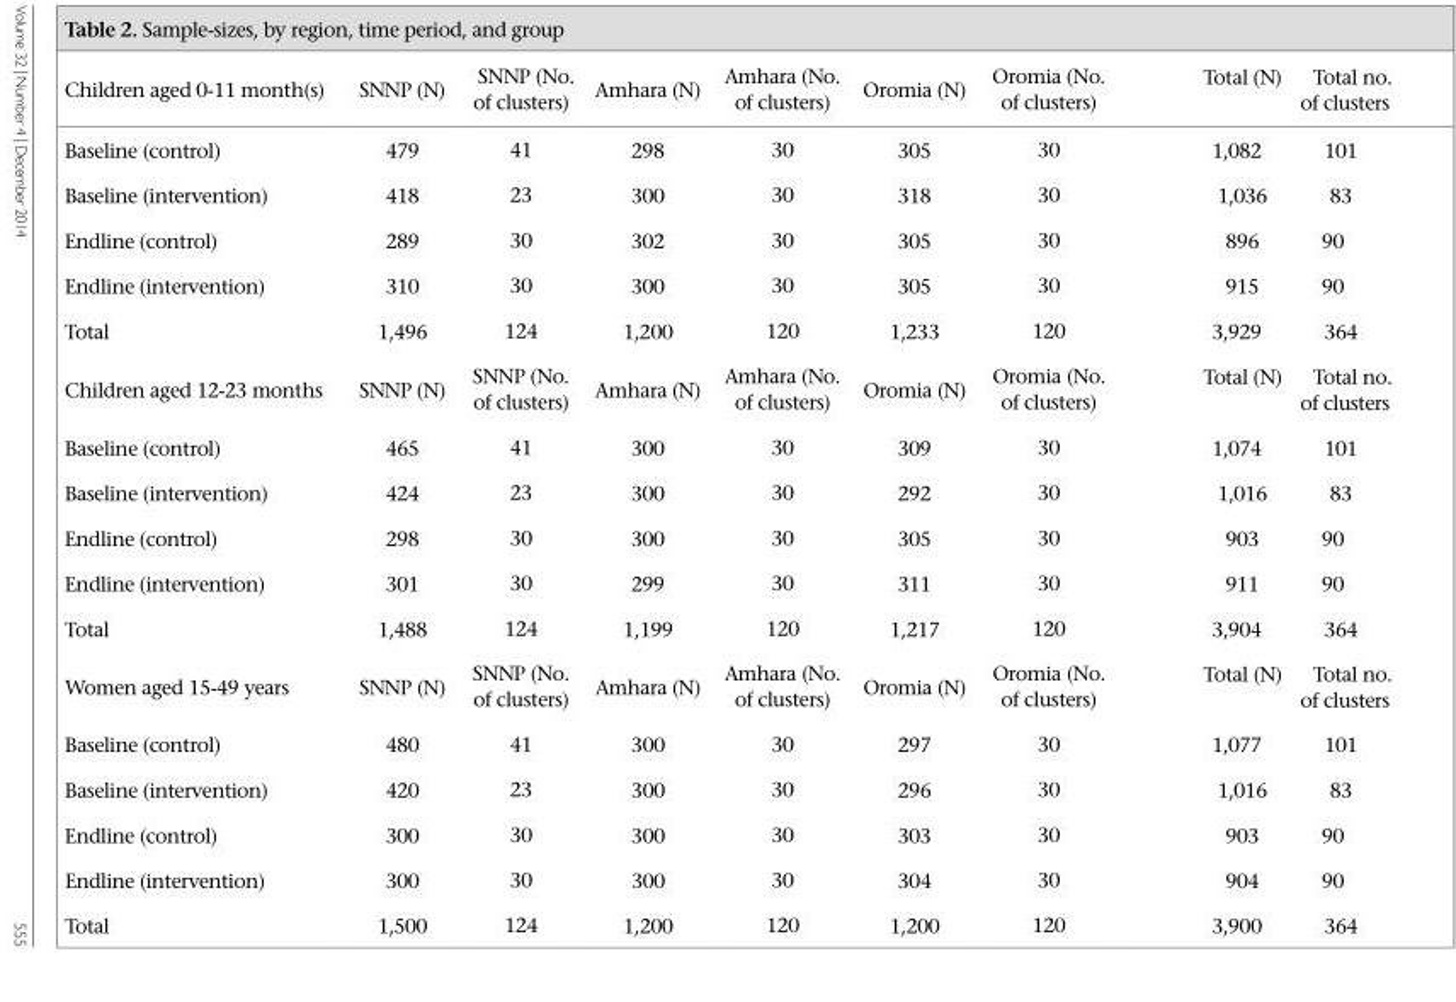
<table><thead><tr><td>Children aged 0-11 month(s)</td><td>SNNP (N)</td><td>SNNP (No. of clusters)</td><td>Amhara (N)</td><td>Amhara (No. of clusters)</td><td>Oromia (N)</td><td>Oromia (No. of clusters)</td><td>Total (N)</td><td>Total no. of clusters</td></tr></thead><tbody><tr><td>Baseline (control)</td><td>479</td><td>41</td><td>298</td><td>30</td><td>305</td><td>30</td><td>1,082</td><td>101</td></tr><tr><td>Baseline (intervention)</td><td>418</td><td>23</td><td>300</td><td>30</td><td>318</td><td>30</td><td>1,036</td><td>83</td></tr><tr><td>Endline (control)</td><td>289</td><td>30</td><td>302</td><td>30</td><td>305</td><td>30</td><td>896</td><td>90</td></tr><tr><td>Endline (intervention)</td><td>310</td><td>30</td><td>300</td><td>30</td><td>305</td><td>30</td><td>915</td><td>90</td></tr><tr><td>Total</td><td>1,496</td><td>124</td><td>1,200</td><td>120</td><td>1,233</td><td>120</td><td>3,929</td><td>364</td></tr><tr><td>Children aged 12-23 months</td><td>SNNP (N)</td><td>SNNP (No. of clusters)</td><td>Amhara (N)</td><td>Amhara (No. of clusters)</td><td>Oromia (N)</td><td>Oromia (No. of clusters)</td><td>Total (N)</td><td>Total no. of clusters</td></tr><tr><td>Baseline (control)</td><td>465</td><td>41</td><td>300</td><td>30</td><td>309</td><td>30</td><td>1,074</td><td>101</td></tr><tr><td>Baseline (intervention)</td><td>424</td><td>23</td><td>300</td><td>30</td><td>292</td><td>30</td><td>1,016</td><td>83</td></tr><tr><td>Endline (control)</td><td>298</td><td>30</td><td>300</td><td>30</td><td>305</td><td>30</td><td>903</td><td>90</td></tr><tr><td>Endline (intervention)</td><td>301</td><td>30</td><td>299</td><td>30</td><td>311</td><td>30</td><td>911</td><td>90</td></tr><tr><td>Total</td><td>1,488</td><td>124</td><td>1,199</td><td>120</td><td>1,217</td><td>120</td><td>3,904</td><td>364</td></tr><tr><td>Women aged 15-49 years</td><td>SNNP (N)</td><td>SNNP (No. of clusters)</td><td>Amhara (N)</td><td>Amhara (No. of clusters)</td><td>Oromia (N)</td><td>Oromia (No. of clusters)</td><td>Total (N)</td><td>Total no. of clusters</td></tr><tr><td>Baseline (control)</td><td>480</td><td>41</td><td>300</td><td>30</td><td>297</td><td>30</td><td>1,077</td><td>101</td></tr><tr><td>Baseline (intervention)</td><td>420</td><td>23</td><td>300</td><td>30</td><td>296</td><td>30</td><td>1,016</td><td>83</td></tr><tr><td>Endline (control)</td><td>300</td><td>30</td><td>300</td><td>30</td><td>303</td><td>30</td><td>903</td><td>90</td></tr><tr><td>Endline (intervention)</td><td>300</td><td>30</td><td>300</td><td>30</td><td>304</td><td>30</td><td>904</td><td>90</td></tr><tr><td>Total</td><td>1,500</td><td>124</td><td>1,200</td><td>120</td><td>1,200</td><td>120</td><td>3,900</td><td>364</td></tr></tbody></table>